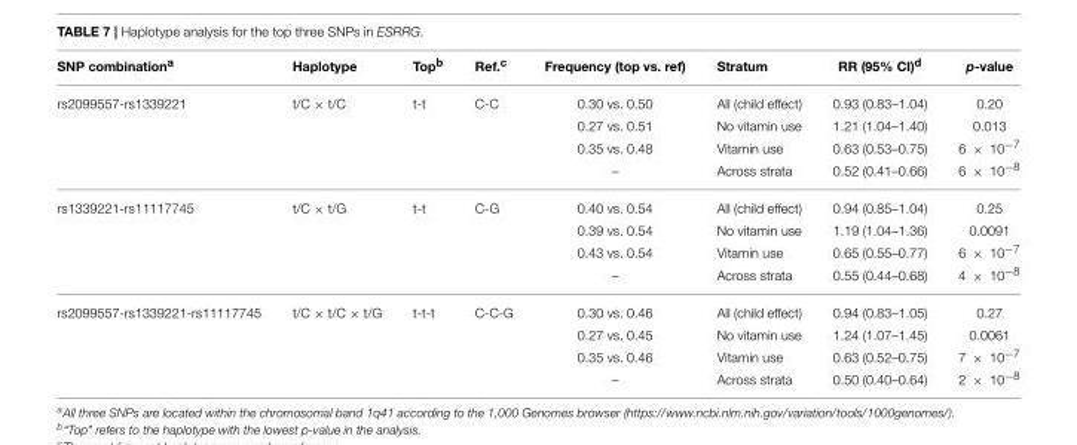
<table><thead><tr><td>SNP combination<sup>a</sup></td><td>Haplotype</td><td>Top<sup>b</sup></td><td>Ref.<sup>c</sup></td><td>Frequency (top vs. ref)</td><td>Stratum</td><td>RR (95% CI)<sup>d</sup></td><td>p-value</td></tr></thead><tbody><tr><td rowspan="4">rs2099557-rs1339221</td><td>t/C × t/C</td><td>t-t</td><td>C-C</td><td>0.30 vs. 0.50</td><td>All (child effect)</td><td>0.93 (0.83–1.04)</td><td>0.20</td></tr><tr><td></td><td></td><td></td><td>0.27 vs. 0.51</td><td>No vitamin use</td><td>1.21 (1.04–1.40)</td><td>0.013</td></tr><tr><td></td><td></td><td></td><td>0.35 vs. 0.48</td><td>Vitamin use</td><td>0.63 (0.53–0.75)</td><td>6 × 10<sup>−7</sup></td></tr><tr><td></td><td></td><td></td><td>–</td><td>Across strata</td><td>0.52 (0.41–0.66)</td><td>6 × 10<sup>−8</sup></td></tr><tr><td rowspan="4">rs1339221-rs11117745</td><td>t/C × t/G</td><td>t-t</td><td>C-G</td><td>0.40 vs. 0.54</td><td>All (child effect)</td><td>0.94 (0.85–1.04)</td><td>0.25</td></tr><tr><td></td><td></td><td></td><td>0.39 vs. 0.54</td><td>No vitamin use</td><td>1.19 (1.04–1.36)</td><td>0.0091</td></tr><tr><td></td><td></td><td></td><td>0.43 vs. 0.54</td><td>Vitamin use</td><td>0.65 (0.55–0.77)</td><td>6 × 10<sup>−7</sup></td></tr><tr><td></td><td></td><td></td><td>–</td><td>Across strata</td><td>0.55 (0.44–0.68)</td><td>4 × 10<sup>−8</sup></td></tr><tr><td rowspan="4">rs2099557-rs1339221-rs11117745</td><td>t/C × t/C × t/G</td><td>t-t-t</td><td>C-C-G</td><td>0.30 vs. 0.46</td><td>All (child effect)</td><td>0.94 (0.83–1.05)</td><td>0.27</td></tr><tr><td></td><td></td><td></td><td>0.27 vs. 0.45</td><td>No vitamin use</td><td>1.24 (1.07–1.45)</td><td>0.0061</td></tr><tr><td></td><td></td><td></td><td>0.35 vs. 0.46</td><td>Vitamin use</td><td>0.63 (0.52–0.75)</td><td>7 × 10<sup>−7</sup></td></tr><tr><td></td><td></td><td></td><td>–</td><td>Across strata</td><td>0.50 (0.40–0.64)</td><td>2 × 10<sup>−8</sup></td></tr></tbody></table>